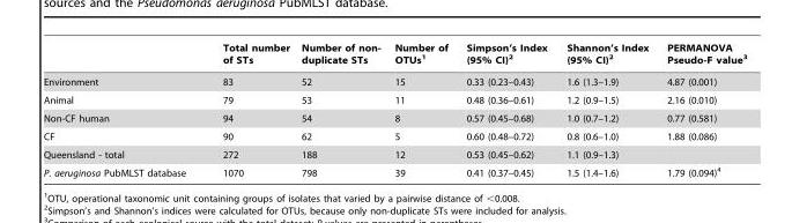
<table><thead><tr><td></td><td>Total number of STs</td><td>Number of non- duplicate STs</td><td>Number of OTUs<sup>1</sup></td><td>Simpson’s Index (95% CI)<sup>2</sup></td><td>Shannon’s Index (95% CI)<sup>2</sup></td><td>PERMANOVA Pseudo-F value<sup>3</sup></td></tr></thead><tbody><tr><td>Environment</td><td>83</td><td>52</td><td>15</td><td>0.33 (0.23–0.43)</td><td>1.6 (1.3–1.9)</td><td>4.87 (0.001)</td></tr><tr><td>Animal</td><td>79</td><td>53</td><td>11</td><td>0.48 (0.36–0.61)</td><td>1.2 (0.9–1.5)</td><td>2.16 (0.010)</td></tr><tr><td>Non-CF human</td><td>94</td><td>54</td><td>8</td><td>0.57 (0.45–0.68)</td><td>1.0 (0.7–1.2)</td><td>0.77 (0.581)</td></tr><tr><td>CF</td><td>90</td><td>62</td><td>5</td><td>0.60 (0.48–0.72)</td><td>0.8 (0.6–1.0)</td><td>1.88 (0.086)</td></tr><tr><td>Queensland - total</td><td>272</td><td>188</td><td>12</td><td>0.53 (0.45–0.62)</td><td>1.1 (0.9–1.3)</td><td></td></tr><tr><td>P. aeruginosa PubMLST database</td><td>1070</td><td>798</td><td>39</td><td>0.41 (0.37–0.45)</td><td>1.5 (1.4–1.6)</td><td>1.79 (0.094)<sup>4</sup></td></tr></tbody></table>